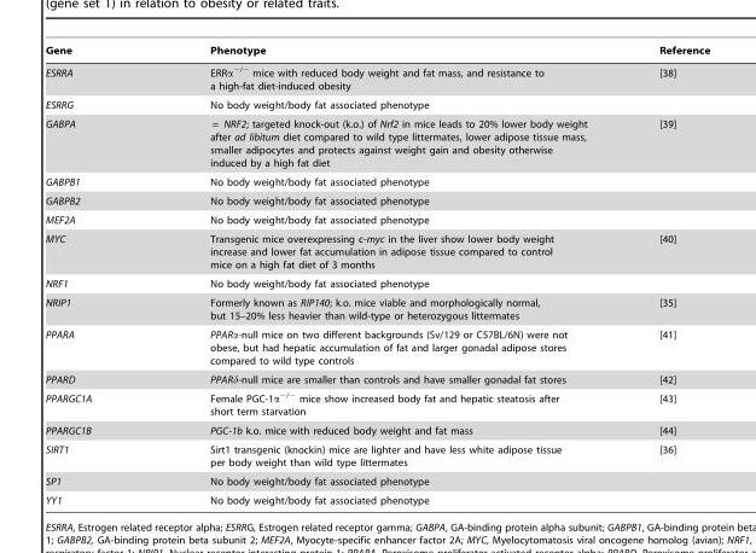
<table><thead><tr><td>Gene</td><td>Phenotype</td><td>Reference</td></tr></thead><tbody><tr><td>ESRRA</td><td>ERRα<sup>−/−</sup> mice with reduced body weight and fat mass, and resistance to a high-fat diet-induced obesity</td><td>[38]</td></tr><tr><td>ESRRG</td><td>No body weight/body fat associated phenotype</td><td></td></tr><tr><td>GABPA</td><td>= NRF2; targeted knock-out (k.o.) of Nrf2 in mice leads to 20% lower body weight after ad libitum diet compared to wild type littermates, lower adipose tissue mass, smaller adipocytes and protects against weight gain and obesity otherwise induced by a high fat diet</td><td>[39]</td></tr><tr><td>GABPB1</td><td>No body weight/body fat associated phenotype</td><td></td></tr><tr><td>GABPB2</td><td>No body weight/body fat associated phenotype</td><td></td></tr><tr><td>MEF2A</td><td>No body weight/body fat associated phenotype</td><td></td></tr><tr><td>MYC</td><td>Transgenic mice overexpressing c-myc in the liver show lower body weight increase and lower fat accumulation in adipose tissue compared to control mice on a high fat diet of 3 months</td><td>[40]</td></tr><tr><td>NRF1</td><td>No body weight/body fat associated phenotype</td><td></td></tr><tr><td>NRIP1</td><td>Formerly known as RIP140; k.o. mice viable and morphologically normal, but 15–20% less heavier than wild-type or heterozygous littermates</td><td>[35]</td></tr><tr><td>PPARA</td><td>PPARα-null mice on two different backgrounds (Sv/129 or C57BL/6N) were not obese, but had hepatic accumulation of fat and larger gonadal adipose stores compared to wild type controls</td><td>[41]</td></tr><tr><td>PPARD</td><td>PPARδ-null mice are smaller than controls and have smaller gonadal fat stores</td><td>[42]</td></tr><tr><td>PPARGC1A</td><td>Female PGC-1α<sup>−/−</sup> mice show increased body fat and hepatic steatosis after short term starvation</td><td>[43]</td></tr><tr><td>PPARGC1B</td><td>PGC-1b k.o. mice with reduced body weight and fat mass</td><td>[44]</td></tr><tr><td>SIRT1</td><td>Sirt1 transgenic (knockin) mice are lighter and have less white adipose tissue per body weight than wild type littermates</td><td>[36]</td></tr><tr><td>SP1</td><td>No body weight/body fat associated phenotype</td><td></td></tr><tr><td>YY1</td><td>No body weight/body fat associated phenotype</td><td></td></tr></tbody></table>